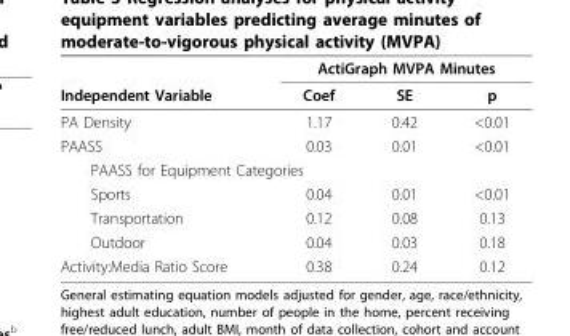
<table><thead><tr><td rowspan="2">Independent Variable</td><td colspan="3">ActiGraph MVPA Minutes</td></tr><tr><td>Coef</td><td>SE</td><td>p</td></tr></thead><tbody><tr><td>PA Density</td><td>1.17</td><td>0.42</td><td>&lt;0.01</td></tr><tr><td>PAASS</td><td>0.03</td><td>0.01</td><td>&lt;0.01</td></tr><tr><td colspan="4">PAASS for Equipment Categories</td></tr><tr><td>Sports</td><td>0.04</td><td>0.01</td><td>&lt;0.01</td></tr><tr><td>Transportation</td><td>0.12</td><td>0.08</td><td>0.13</td></tr><tr><td>Outdoor</td><td>0.04</td><td>0.03</td><td>0.18</td></tr><tr><td>Activity:Media Ratio Score</td><td>0.38</td><td>0.24</td><td>0.12</td></tr></tbody></table>